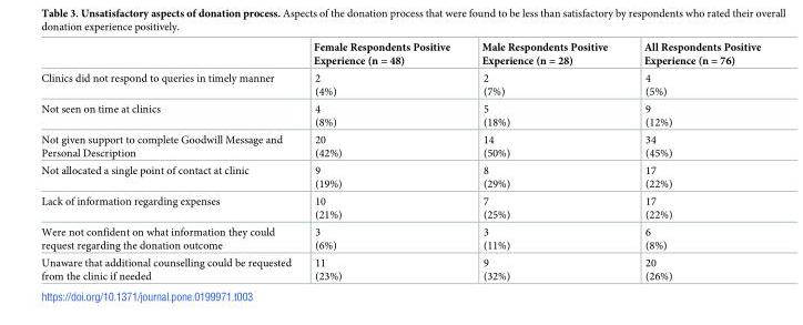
<table><thead><tr><td></td><td>Female Respondents Positive Experience (n = 48)</td><td>Male Respondents Positive Experience (n = 28)</td><td>All Respondents Positive Experience (n = 76)</td></tr></thead><tbody><tr><td>Clinics did not respond to queries in timely manner</td><td>2 (4%)</td><td>2 (7%)</td><td>4 (5%)</td></tr><tr><td>Not seen on time at clinics</td><td>4 (8%)</td><td>5 (18%)</td><td>9 (12%)</td></tr><tr><td>Not given support to complete Goodwill Message and Personal Description</td><td>20 (42%)</td><td>14 (50%)</td><td>34 (45%)</td></tr><tr><td>Not allocated a single point of contact at clinic</td><td>9 (19%)</td><td>8 (29%)</td><td>17 (22%)</td></tr><tr><td>Lack of information regarding expenses</td><td>10 (21%)</td><td>7 (25%)</td><td>17 (22%)</td></tr><tr><td>Were not confident on what information they could request regarding the donation outcome</td><td>3 (6%)</td><td>3 (11%)</td><td>6 (8%)</td></tr><tr><td>Unaware that additional counselling could be requested from the clinic if needed</td><td>11 (23%)</td><td>9 (32%)</td><td>20 (26%)</td></tr></tbody></table>